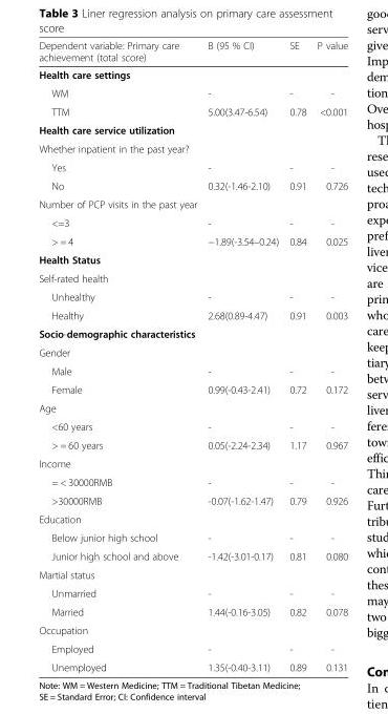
<table><thead><tr><td>Dependent variable: Primary care achievement (total score)</td><td>B (95 % CI)</td><td>SE</td><td>P value</td></tr></thead><tbody><tr><td colspan="4">Health care settings</td></tr><tr><td>WM</td><td>-</td><td>-</td><td>-</td></tr><tr><td>TTM</td><td>5.00(3.47-6.54)</td><td>0.78</td><td>&lt;0.001</td></tr><tr><td colspan="4">Health care service utilization</td></tr><tr><td colspan="4">Whether inpatient in the past year?</td></tr><tr><td>Yes</td><td>-</td><td>-</td><td>-</td></tr><tr><td>No</td><td>0.32(-1.46-2.10)</td><td>0.91</td><td>0.726</td></tr><tr><td colspan="4">Number of PCP visits in the past year</td></tr><tr><td>&lt;=3</td><td>-</td><td>-</td><td>-</td></tr><tr><td>&gt; = 4</td><td>−1.89(-3.54–0.24)</td><td>0.84</td><td>0.025</td></tr><tr><td colspan="4">Health Status</td></tr><tr><td colspan="4">Self-rated health</td></tr><tr><td>Unhealthy</td><td>-</td><td>-</td><td>-</td></tr><tr><td>Healthy</td><td>2.68(0.89-4.47)</td><td>0.91</td><td>0.003</td></tr><tr><td colspan="4">Socio-demographic characteristics</td></tr><tr><td colspan="4">Gender</td></tr><tr><td>Male</td><td>-</td><td>-</td><td>-</td></tr><tr><td>Female</td><td>0.99(-0.43-2.41)</td><td>0.72</td><td>0.172</td></tr><tr><td colspan="4">Age</td></tr><tr><td>&lt;60 years</td><td>-</td><td>-</td><td>-</td></tr><tr><td>&gt; = 60 years</td><td>0.05(-2.24-2.34)</td><td>1.17</td><td>0.967</td></tr><tr><td colspan="4">Income</td></tr><tr><td>= &lt; 30000RMB</td><td>-</td><td>-</td><td>-</td></tr><tr><td>&gt;30000RMB</td><td>-0.07(-1.62-1.47)</td><td>0.79</td><td>0.926</td></tr><tr><td colspan="4">Education</td></tr><tr><td>Below junior high school</td><td>-</td><td>-</td><td>-</td></tr><tr><td>Junior high school and above</td><td>-1.42(-3.01-0.17)</td><td>0.81</td><td>0.080</td></tr><tr><td colspan="4">Martial status</td></tr><tr><td>Unmarried</td><td>-</td><td>-</td><td>-</td></tr><tr><td>Married</td><td>1.44(-0.16-3.05)</td><td>0.82</td><td>0.078</td></tr><tr><td colspan="4">Occupation</td></tr><tr><td>Employed</td><td>-</td><td>-</td><td>-</td></tr><tr><td>Unemployed</td><td>1.35(-0.40-3.11)</td><td>0.89</td><td>0.131</td></tr></tbody></table>